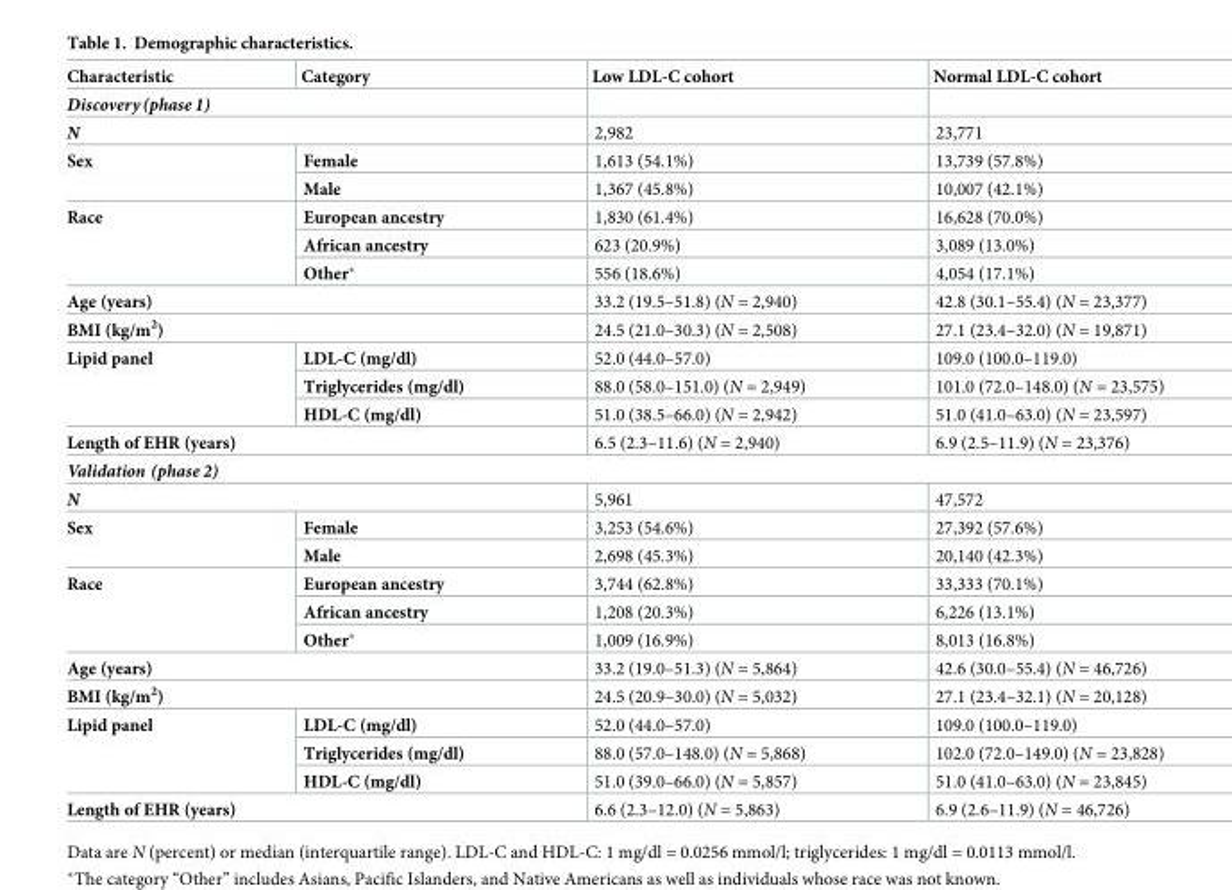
<table><thead><tr><td>Characteristic</td><td>Category</td><td>Low LDL-C cohort</td><td>Normal LDL-C cohort</td></tr></thead><tbody><tr><td colspan="4">Discovery(phase 1)</td></tr><tr><td colspan="2">N</td><td>2,982</td><td>23,771</td></tr><tr><td rowspan="2">Sex</td><td>Female</td><td>1,613 (54.1%)</td><td>13,739 (57.8%)</td></tr><tr><td>Male</td><td>1,367 (45.8%)</td><td>10,007 (42.1%)</td></tr><tr><td rowspan="3">Race</td><td>European ancestry</td><td>1,830 (61.4%)</td><td>16,628 (70.0%)</td></tr><tr><td>African ancestry</td><td>623 (20.9%)</td><td>3,089 (13.0%)</td></tr><tr><td>Other*</td><td>556 (18.6%)</td><td>4,054 (17.1%)</td></tr><tr><td colspan="2">Age (years)</td><td>33.2 (19.5–51.8) (N = 2,940)</td><td>42.8 (30.1–55.4) (N = 23,377)</td></tr><tr><td colspan="2">BMI (kg/m<sup>2</sup>)</td><td>24.5 (21.0–30.3) (N = 2,508)</td><td>27.1 (23.4–32.0) (N = 19,871)</td></tr><tr><td rowspan="3">Lipid panel</td><td>LDL-C (mg/dl)</td><td>52.0 (44.0–57.0)</td><td>109.0 (100.0–119.0)</td></tr><tr><td>Triglycerides (mg/dl)</td><td>88.0 (58.0–151.0) (N = 2,949)</td><td>101.0 (72.0–148.0) (N = 23,575)</td></tr><tr><td>HDL-C (mg/dl)</td><td>51.0 (38.5–66.0) (N = 2,942)</td><td>51.0 (41.0–63.0) (N = 23,597)</td></tr><tr><td colspan="2">Length of EHR (years)</td><td>6.5 (2.3–11.6) (N = 2,940)</td><td>6.9 (2.5–11.9) (N = 23,376)</td></tr><tr><td colspan="4">Validation (phase 2)</td></tr><tr><td colspan="2">N</td><td>5,961</td><td>47,572</td></tr><tr><td rowspan="2">Sex</td><td>Female</td><td>3,253 (54.6%)</td><td>27,392 (57.6%)</td></tr><tr><td>Male</td><td>2,698 (45.3%)</td><td>20,140 (42.3%)</td></tr><tr><td rowspan="3">Race</td><td>European ancestry</td><td>3,744 (62.8%)</td><td>33,333 (70.1%)</td></tr><tr><td>African ancestry</td><td>1,208 (20.3%)</td><td>6,226 (13.1%)</td></tr><tr><td>Other*</td><td>1,009 (16.9%)</td><td>8,013 (16.8%)</td></tr><tr><td colspan="2">Age (years)</td><td>33.2 (19.0–51.3) (N = 5,864)</td><td>42.6 (30.0–55.4) (N = 46,726)</td></tr><tr><td colspan="2">BMI (kg/m<sup>2</sup>)</td><td>24.5 (20.9–30.0) (N = 5,032)</td><td>27.1 (23.4–32.1) (N = 20,128)</td></tr><tr><td rowspan="3">Lipid panel</td><td>LDL-C (mg/dl)</td><td>52.0 (44.0–57.0)</td><td>109.0 (100.0–119.0)</td></tr><tr><td>Triglycerides (mg/dl)</td><td>88.0 (57.0–148.0) (N = 5,868)</td><td>102.0 (72.0–149.0) (N = 23,828)</td></tr><tr><td>HDL-C (mg/dl)</td><td>51.0 (39.0–66.0) (N = 5,857)</td><td>51.0 (41.0–63.0) (N = 23,845)</td></tr><tr><td colspan="2">Length of EHR (years)</td><td>6.6 (2.3–12.0) (N = 5,863)</td><td>6.9 (2.6–11.9) (N = 46,726)</td></tr></tbody></table>